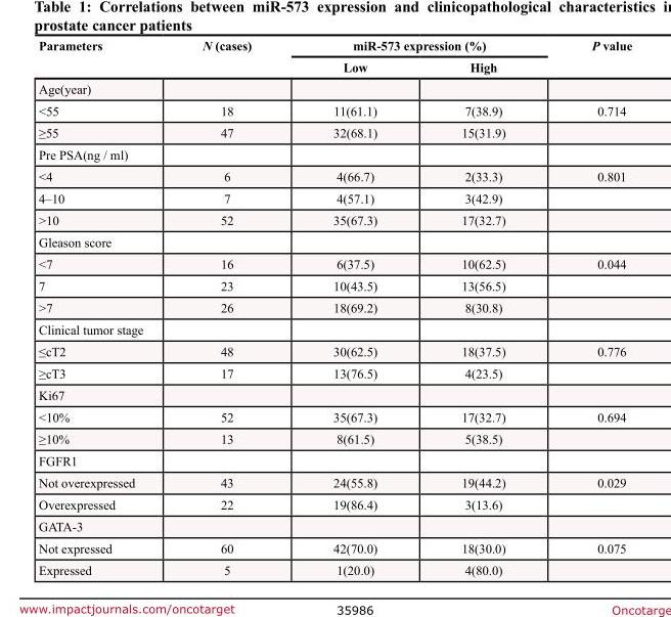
<table><thead><tr><td rowspan="2">Parameters</td><td rowspan="2">N (cases)</td><td colspan="2">miR-573 expression (%)</td><td rowspan="2">P value</td></tr><tr><td>Low</td><td>High</td></tr></thead><tbody><tr><td colspan="5">Age(year)</td></tr><tr><td>&lt;55</td><td>18</td><td>11(61.1)</td><td>7(38.9)</td><td>0.714</td></tr><tr><td>≥55</td><td>47</td><td>32(68.1)</td><td>15(31.9)</td><td></td></tr><tr><td colspan="5">Pre PSA(ng / ml)</td></tr><tr><td>&lt;4</td><td>6</td><td>4(66.7)</td><td>2(33.3)</td><td>0.801</td></tr><tr><td>4–10</td><td>7</td><td>4(57.1)</td><td>3(42.9)</td><td></td></tr><tr><td>&gt;10</td><td>52</td><td>35(67.3)</td><td>17(32.7)</td><td></td></tr><tr><td colspan="5">Gleason score</td></tr><tr><td>&lt;7</td><td>16</td><td>6(37.5)</td><td>10(62.5)</td><td>0.044</td></tr><tr><td>7</td><td>23</td><td>10(43.5)</td><td>13(56.5)</td><td></td></tr><tr><td>&gt;7</td><td>26</td><td>18(69.2)</td><td>8(30.8)</td><td></td></tr><tr><td colspan="5">Clinical tumor stage</td></tr><tr><td>≤cT2</td><td>48</td><td>30(62.5)</td><td>18(37.5)</td><td>0.776</td></tr><tr><td>≥cT3</td><td>17</td><td>13(76.5)</td><td>4(23.5)</td><td></td></tr><tr><td colspan="5">Ki67</td></tr><tr><td>&lt;10%</td><td>52</td><td>35(67.3)</td><td>17(32.7)</td><td>0.694</td></tr><tr><td>≥10%</td><td>13</td><td>8(61.5)</td><td>5(38.5)</td><td></td></tr><tr><td colspan="5">FGFR1</td></tr><tr><td>Not overexpressed</td><td>43</td><td>24(55.8)</td><td>19(44.2)</td><td>0.029</td></tr><tr><td>Overexpressed</td><td>22</td><td>19(86.4)</td><td>3(13.6)</td><td></td></tr><tr><td colspan="5">GATA-3</td></tr><tr><td>Not expressed</td><td>60</td><td>42(70.0)</td><td>18(30.0)</td><td>0.075</td></tr><tr><td>Expressed</td><td>5</td><td>1(20.0)</td><td>4(80.0)</td><td></td></tr></tbody></table>